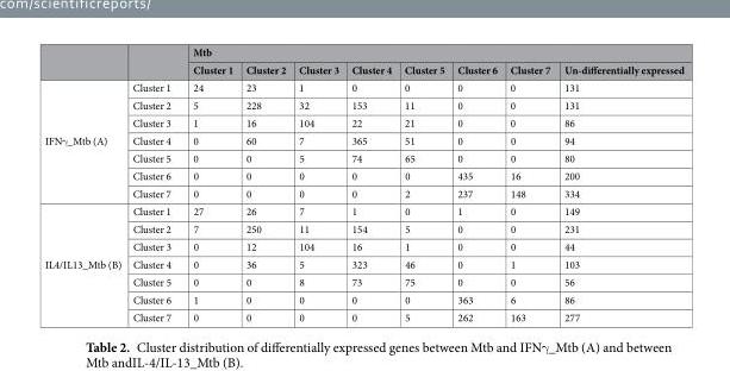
<table><thead><tr><td rowspan="2"></td><td rowspan="2"></td><td colspan="8">Mtb</td></tr><tr><td>Cluster 1</td><td>Cluster 2</td><td>Cluster 3</td><td>Cluster 4</td><td>Cluster 5</td><td>Cluster 6</td><td>Cluster 7</td><td>Un-differentially expressed</td></tr></thead><tbody><tr><td rowspan="7">IFNγ_Mtb (A)</td><td>Cluster 1</td><td>24</td><td>23</td><td>1</td><td>0</td><td>0</td><td>0</td><td>0</td><td>131</td></tr><tr><td>Cluster 2</td><td>5</td><td>228</td><td>32</td><td>153</td><td>11</td><td>0</td><td>0</td><td>131</td></tr><tr><td>Cluster 3</td><td>1</td><td>16</td><td>104</td><td>22</td><td>21</td><td>0</td><td>0</td><td>86</td></tr><tr><td>Cluster 4</td><td>0</td><td>60</td><td>7</td><td>365</td><td>51</td><td>0</td><td>0</td><td>94</td></tr><tr><td>Cluster 5</td><td>0</td><td>0</td><td>5</td><td>74</td><td>65</td><td>0</td><td>0</td><td>80</td></tr><tr><td>Cluster 6</td><td>0</td><td>0</td><td>0</td><td>0</td><td>0</td><td>435</td><td>16</td><td>200</td></tr><tr><td>Cluster 7</td><td>0</td><td>0</td><td>0</td><td>0</td><td>2</td><td>237</td><td>148</td><td>334</td></tr><tr><td rowspan="7">IL4/IL13_Mtb (B)</td><td>Cluster 1</td><td>27</td><td>26</td><td>7</td><td>1</td><td>0</td><td>1</td><td>0</td><td>149</td></tr><tr><td>Cluster 2</td><td>7</td><td>250</td><td>11</td><td>154</td><td>5</td><td>0</td><td>0</td><td>231</td></tr><tr><td>Cluster 3</td><td>0</td><td>12</td><td>104</td><td>16</td><td>1</td><td>0</td><td>0</td><td>44</td></tr><tr><td>Cluster 4</td><td>0</td><td>36</td><td>5</td><td>323</td><td>46</td><td>0</td><td>1</td><td>103</td></tr><tr><td>Cluster 5</td><td>0</td><td>0</td><td>8</td><td>73</td><td>75</td><td>0</td><td>0</td><td>56</td></tr><tr><td>Cluster 6</td><td>1</td><td>0</td><td>0</td><td>0</td><td>0</td><td>363</td><td>6</td><td>86</td></tr><tr><td>Cluster 7</td><td>0</td><td>0</td><td>0</td><td>0</td><td>5</td><td>262</td><td>163</td><td>277</td></tr></tbody></table>